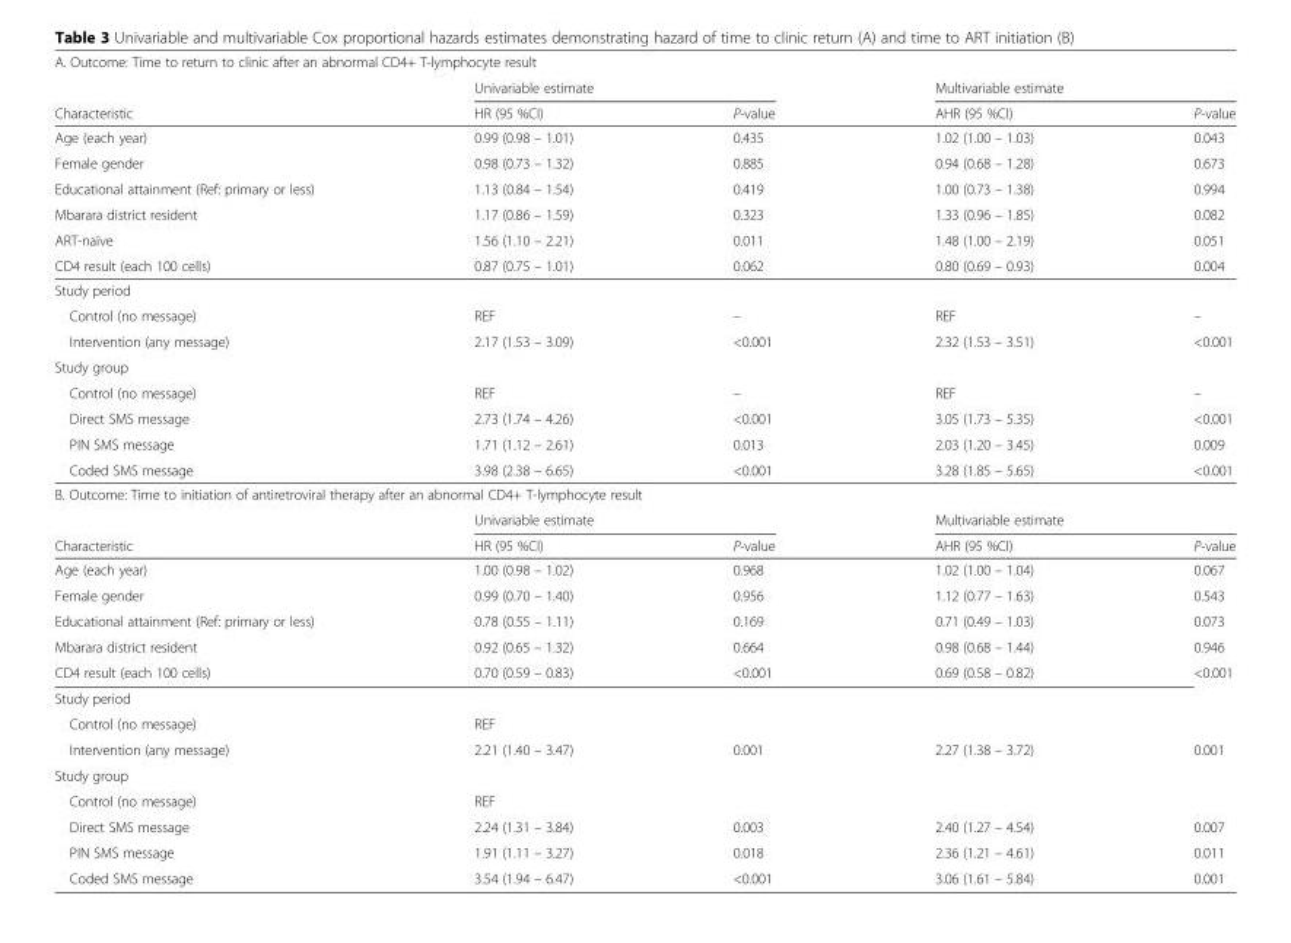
<table><tbody><tr><td colspan="5">A. Outcome: Time to return to clinic after an abnormal CD4+ T-lymphocyte result</td></tr><tr><td></td><td colspan="2">Univariable estimate</td><td colspan="2">Multivariable estimate</td></tr><tr><td>Characteristic</td><td>HR (95 %CI)</td><td>P-value</td><td>AHR (95 %CI)</td><td>P-value</td></tr><tr><td>Age (each year)</td><td>0.99 (0.98 – 1.01)</td><td>0.435</td><td>1.02 (1.00 – 1.03)</td><td>0.043</td></tr><tr><td>Female gender</td><td>0.98 (0.73 – 1.32)</td><td>0.885</td><td>0.94 (0.68 – 1.28)</td><td>0.673</td></tr><tr><td>Educational attainment (Ref: primary or less)</td><td>1.13 (0.84 – 1.54)</td><td>0.419</td><td>1.00 (0.73 – 1.38)</td><td>0.994</td></tr><tr><td>Mbarara district resident</td><td>1.17 (0.86 – 1.59)</td><td>0.323</td><td>1.33 (0.96 – 1.85)</td><td>0.082</td></tr><tr><td>ART-naïve</td><td>1.56 (1.10 – 2.21)</td><td>0.011</td><td>1.48 (1.00 – 2.19)</td><td>0.051</td></tr><tr><td>CD4 result (each 100 cells)</td><td>0.87 (0.75 – 1.01)</td><td>0.062</td><td>0.80 (0.69 – 0.93)</td><td>0.004</td></tr><tr><td colspan="5">Study period</td></tr><tr><td>Control (no message)</td><td>REF</td><td>–</td><td>REF</td><td>–</td></tr><tr><td>Intervention (any message)</td><td>2.17 (1.53 – 3.09)</td><td>&lt;0.001</td><td>2.32 (1.53 – 3.51)</td><td>&lt;0.001</td></tr><tr><td colspan="5">Study group</td></tr><tr><td>Control (no message)</td><td>REF</td><td>–</td><td>REF</td><td>–</td></tr><tr><td>Direct SMS message</td><td>2.73 (1.74 – 4.26)</td><td>&lt;0.001</td><td>3.05 (1.73 – 5.35)</td><td>&lt;0.001</td></tr><tr><td>PIN SMS message</td><td>1.71 (1.12 – 2.61)</td><td>0.013</td><td>2.03 (1.20 – 3.45)</td><td>0.009</td></tr><tr><td>Coded SMS message</td><td>3.98 (2.38 – 6.65)</td><td>&lt;0.001</td><td>3.28 (1.85 – 5.65)</td><td>&lt;0.001</td></tr><tr><td colspan="5">B. Outcome: Time to initiation of antiretroviral therapy after an abnormal CD4+ T-lymphocyte result</td></tr><tr><td></td><td colspan="2">Univariable estimate</td><td colspan="2">Multivariable estimate</td></tr><tr><td>Characteristic</td><td>HR (95 %CI)</td><td>P-value</td><td>AHR (95 %CI)</td><td>P-value</td></tr><tr><td>Age (each year)</td><td>1.00 (0.98 – 1.02)</td><td>0.968</td><td>1.02 (1.00 – 1.04)</td><td>0.067</td></tr><tr><td>Female gender</td><td>0.99 (0.70 – 1.40)</td><td>0.956</td><td>1.12 (0.77 – 1.63)</td><td>0.543</td></tr><tr><td>Educational attainment (Ref: primary or less)</td><td>0.78 (0.55 – 1.11)</td><td>0.169</td><td>0.71 (0.49 – 1.03)</td><td>0.073</td></tr><tr><td>Mbarara district resident</td><td>0.92 (0.65 – 1.32)</td><td>0.664</td><td>0.98 (0.68 – 1.44)</td><td>0.946</td></tr><tr><td>CD4 result (each 100 cells)</td><td>0.70 (0.59 – 0.83)</td><td>&lt;0.001</td><td>0.69 (0.58 – 0.82)</td><td>&lt;0.001</td></tr><tr><td colspan="5">Study period</td></tr><tr><td>Control (no message)</td><td>REF</td><td></td><td></td><td></td></tr><tr><td>Intervention (any message)</td><td>2.21 (1.40 – 3.47)</td><td>0.001</td><td>2.27 (1.38 – 3.72)</td><td>0.001</td></tr><tr><td colspan="5">Study group</td></tr><tr><td>Control (no message)</td><td>REF</td><td></td><td></td><td></td></tr><tr><td>Direct SMS message</td><td>2.24 (1.31 – 3.84)</td><td>0.003</td><td>2.40 (1.27 – 4.54)</td><td>0.007</td></tr><tr><td>PIN SMS message</td><td>1.91 (1.11 – 3.27)</td><td>0.018</td><td>2.36 (1.21 – 4.61)</td><td>0.011</td></tr><tr><td>Coded SMS message</td><td>3.54 (1.94 – 6.47)</td><td>&lt;0.001</td><td>3.06 (1.61 – 5.84)</td><td>0.001</td></tr></tbody></table>